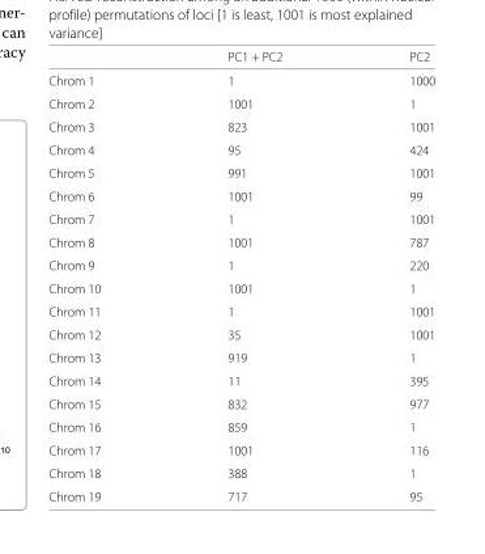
<table><thead><tr><td></td><td>PC1 + PC2</td><td>PC2</td></tr></thead><tbody><tr><td>Chrom 1</td><td>1</td><td>1000</td></tr><tr><td>Chrom 2</td><td>1001</td><td>1</td></tr><tr><td>Chrom 3</td><td>823</td><td>1001</td></tr><tr><td>Chrom 4</td><td>95</td><td>424</td></tr><tr><td>Chrom 5</td><td>991</td><td>1001</td></tr><tr><td>Chrom 6</td><td>1001</td><td>99</td></tr><tr><td>Chrom 7</td><td>1</td><td>1001</td></tr><tr><td>Chrom 8</td><td>1001</td><td>787</td></tr><tr><td>Chrom 9</td><td>1</td><td>220</td></tr><tr><td>Chrom 10</td><td>1001</td><td>1</td></tr><tr><td>Chrom 11</td><td>1</td><td>1001</td></tr><tr><td>Chrom 12</td><td>35</td><td>1001</td></tr><tr><td>Chrom 13</td><td>919</td><td>1</td></tr><tr><td>Chrom 14</td><td>11</td><td>395</td></tr><tr><td>Chrom 15</td><td>832</td><td>977</td></tr><tr><td>Chrom 16</td><td>859</td><td>1</td></tr><tr><td>Chrom 17</td><td>1001</td><td>116</td></tr><tr><td>Chrom 18</td><td>388</td><td>1</td></tr><tr><td>Chrom 19</td><td>717</td><td>95</td></tr></tbody></table>